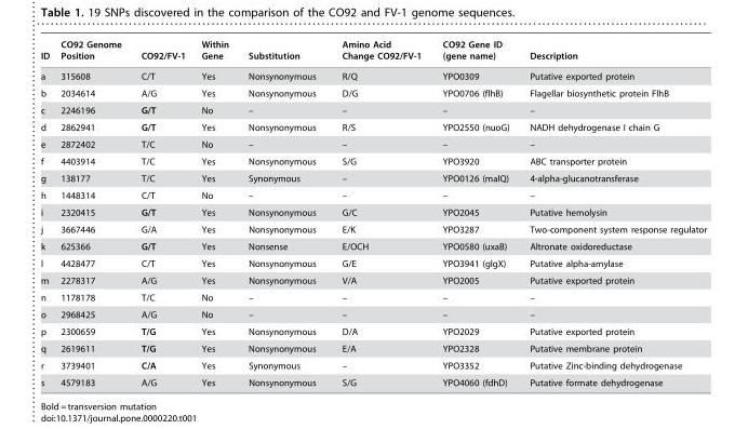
<table><thead><tr><td>ID</td><td>CO92 Genome Position</td><td>CO92/FV-1</td><td>Within Gene</td><td>Substitution</td><td>Amino Acid Change CO92/FV-1</td><td>CO92 Gene ID (gene name)</td><td>Description</td></tr></thead><tbody><tr><td>a</td><td>315608</td><td>C/T</td><td>Yes</td><td>Nonsynonymous</td><td>R/Q</td><td>YPO0309</td><td>Putative exported protein</td></tr><tr><td>b</td><td>2034614</td><td>A/G</td><td>Yes</td><td>Nonsynonymous</td><td>D/G</td><td>YPO0706 (flhB)</td><td>Flagellar biosynthetic protein FlhB</td></tr><tr><td>c</td><td>2246196</td><td>G/T</td><td>No</td><td>–</td><td>–</td><td>–</td><td>–</td></tr><tr><td>d</td><td>2862941</td><td>G/T</td><td>Yes</td><td>Nonsynonymous</td><td>R/S</td><td>YPO2550 (nuoG)</td><td>NADH dehydrogenase I chain G</td></tr><tr><td>e</td><td>2872402</td><td>T/C</td><td>No</td><td>–</td><td>–</td><td>–</td><td>–</td></tr><tr><td>f</td><td>4403914</td><td>T/C</td><td>Yes</td><td>Nonsynonymous</td><td>S/G</td><td>YPO3920</td><td>ABC transporter protein</td></tr><tr><td>g</td><td>138177</td><td>T/C</td><td>Yes</td><td>Synonymous</td><td>–</td><td>YPO0126 (malQ)</td><td>4-alpha-glucanotransferase</td></tr><tr><td>h</td><td>1448314</td><td>C/T</td><td>No</td><td>–</td><td>–</td><td>–</td><td>–</td></tr><tr><td>i</td><td>2320415</td><td>G/T</td><td>Yes</td><td>Nonsynonymous</td><td>G/C</td><td>YPO2045</td><td>Putative hemolysin</td></tr><tr><td>j</td><td>3667446</td><td>G/A</td><td>Yes</td><td>Nonsynonymous</td><td>E/K</td><td>YPO3287</td><td>Two-component system response regulator</td></tr><tr><td>k</td><td>625366</td><td>G/T</td><td>Yes</td><td>Nonsense</td><td>E/OCH</td><td>YPO0580 (uxaB)</td><td>Altronate oxidoreductase</td></tr><tr><td>l</td><td>4428477</td><td>C/T</td><td>Yes</td><td>Nonsynonymous</td><td>G/E</td><td>YPO3941 (glgX)</td><td>Putative alpha-amylase</td></tr><tr><td>m</td><td>2278317</td><td>A/G</td><td>Yes</td><td>Nonsynonymous</td><td>V/A</td><td>YPO2005</td><td>Putative exported protein</td></tr><tr><td>n</td><td>1178178</td><td>T/C</td><td>No</td><td>–</td><td>–</td><td>–</td><td>–</td></tr><tr><td>o</td><td>2968425</td><td>A/G</td><td>No</td><td>–</td><td>–</td><td>–</td><td>–</td></tr><tr><td>p</td><td>2300659</td><td>T/G</td><td>Yes</td><td>Nonsynonymous</td><td>D/A</td><td>YPO2029</td><td>Putative exported protein</td></tr><tr><td>q</td><td>2619611</td><td>T/G</td><td>Yes</td><td>Nonsynonymous</td><td>E/A</td><td>YPO2328</td><td>Putative membrane protein</td></tr><tr><td>r</td><td>3739401</td><td>C/A</td><td>Yes</td><td>Synonymous</td><td>–</td><td>YPO3352</td><td>Putative Zinc-binding dehydrogenase</td></tr><tr><td>s</td><td>4579183</td><td>A/G</td><td>Yes</td><td>Nonsynonymous</td><td>S/G</td><td>YPO4060 (fdhD)</td><td>Putative formate dehydrogenase</td></tr></tbody></table>